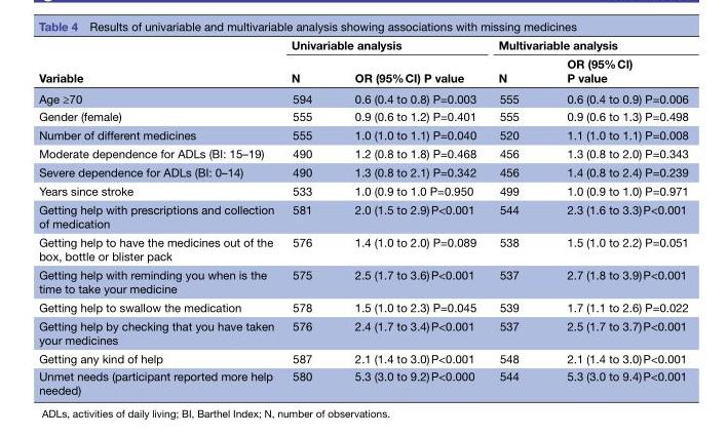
<table><thead><tr><td rowspan="2">Variable</td><td colspan="2">Univariable analysis</td><td colspan="2">Multivariable analysis</td></tr><tr><td>N</td><td>OR (95% CI) P value</td><td>N</td><td>OR (95% CI) P value</td></tr></thead><tbody><tr><td>Age ≥70</td><td>594</td><td>0.6 (0.4 to 0.8) P=0.003</td><td>555</td><td>0.6 (0.4 to 0.9) P=0.006</td></tr><tr><td>Gender (female)</td><td>555</td><td>0.9 (0.6 to 1.2) P=0.401</td><td>555</td><td>0.9 (0.6 to 1.3) P=0.498</td></tr><tr><td>Number of different medicines</td><td>555</td><td>1.0 (1.0 to 1.1) P=0.040</td><td>520</td><td>1.1 (1.0 to 1.1) P=0.008</td></tr><tr><td>Moderate dependence for ADLs (BI: 15–19)</td><td>490</td><td>1.2 (0.8 to 1.8) P=0.468</td><td>456</td><td>1.3 (0.8 to 2.0) P=0.343</td></tr><tr><td>Severe dependence for ADLs (BI: 0–14)</td><td>490</td><td>1.3 (0.8 to 2.1) P=0.342</td><td>456</td><td>1.4 (0.8 to 2.4) P=0.239</td></tr><tr><td>Years since stroke</td><td>533</td><td>1.0 (0.9 to 1.0 P=0.950</td><td>499</td><td>1.0 (0.9 to 1.0) P=0.971</td></tr><tr><td>Getting help with prescriptions and collection of medication</td><td>581</td><td>2.0 (1.5 to 2.9) P&lt;0.001</td><td>544</td><td>2.3 (1.6 to 3.3) P&lt;0.001</td></tr><tr><td>Getting help to have the medicines out of the box, bottle or blister pack</td><td>576</td><td>1.4 (1.0 to 2.0) P=0.089</td><td>538</td><td>1.5 (1.0 to 2.2) P=0.051</td></tr><tr><td>Getting help with reminding you when is the time to take your medicine</td><td>575</td><td>2.5 (1.7 to 3.6) P&lt;0.001</td><td>537</td><td>2.7 (1.8 to 3.9) P&lt;0.001</td></tr><tr><td>Getting help to swallow the medication</td><td>578</td><td>1.5 (1.0 to 2.3) P=0.045</td><td>539</td><td>1.7 (1.1 to 2.6) P=0.022</td></tr><tr><td>Getting help by checking that you have taken your medicines</td><td>576</td><td>2.4 (1.7 to 3.4) P&lt;0.001</td><td>537</td><td>2.5 (1.7 to 3.7) P&lt;0.001</td></tr><tr><td>Getting any kind of help</td><td>587</td><td>2.1 (1.4 to 3.0) P&lt;0.001</td><td>548</td><td>2.1 (1.4 to 3.0) P&lt;0.001</td></tr><tr><td>Unmet needs (participant reported more help needed)</td><td>580</td><td>5.3 (3.0 to 9.2) P&lt;0.000</td><td>544</td><td>5.3 (3.0 to 9.4) P&lt;0.001</td></tr></tbody></table>